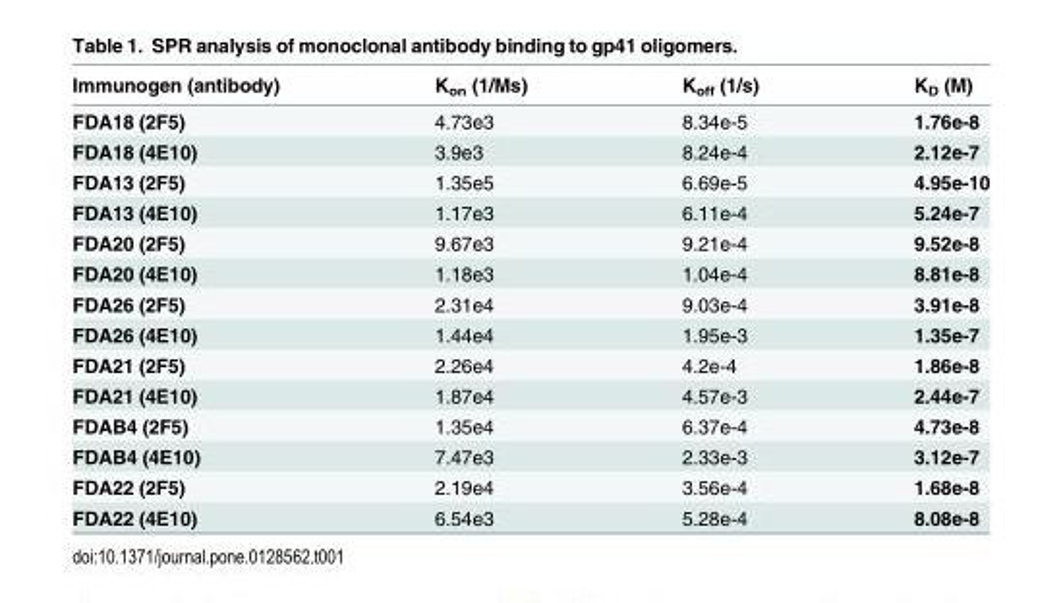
<table><thead><tr><td>Immunogen (antibody)</td><td>K<sub>on</sub> (1/Ms)</td><td>K<sub>off</sub> (1/s)</td><td>K<sub>D</sub> (M)</td></tr></thead><tbody><tr><td>FDA18 (2F5)</td><td>4.73e3</td><td>8.34e-5</td><td>1.76e-8</td></tr><tr><td>FDA18 (4E10)</td><td>3.9e3</td><td>8.24e-4</td><td>2.12e-7</td></tr><tr><td>FDA13 (2F5)</td><td>1.35e5</td><td>6.69e-5</td><td>4.95e-10</td></tr><tr><td>FDA13 (4E10)</td><td>1.17e3</td><td>6.11e-4</td><td>5.24e-7</td></tr><tr><td>FDA20 (2F5)</td><td>9.67e3</td><td>9.21e-4</td><td>9.52e-8</td></tr><tr><td>FDA20 (4E10)</td><td>1.18e3</td><td>1.04e-4</td><td>8.81e-8</td></tr><tr><td>FDA26 (2F5)</td><td>2.31e4</td><td>9.03e-4</td><td>3.91e-8</td></tr><tr><td>FDA26 (4E10)</td><td>1.44e4</td><td>1.95e-3</td><td>1.35e-7</td></tr><tr><td>FDA21 (2F5)</td><td>2.26e4</td><td>4.2e-4</td><td>1.86e-8</td></tr><tr><td>FDA21 (4E10)</td><td>1.87e4</td><td>4.57e-3</td><td>2.44e-7</td></tr><tr><td>FDAB4 (2F5)</td><td>1.35e4</td><td>6.37e-4</td><td>4.73e-8</td></tr><tr><td>FDAB4 (4E10)</td><td>7.47e3</td><td>2.33e-3</td><td>3.12e-7</td></tr><tr><td>FDA22 (2F5)</td><td>2.19e4</td><td>3.56e-4</td><td>1.68e-8</td></tr><tr><td>FDA22 (4E10)</td><td>6.54e3</td><td>5.28e-4</td><td>8.08e-8</td></tr></tbody></table>